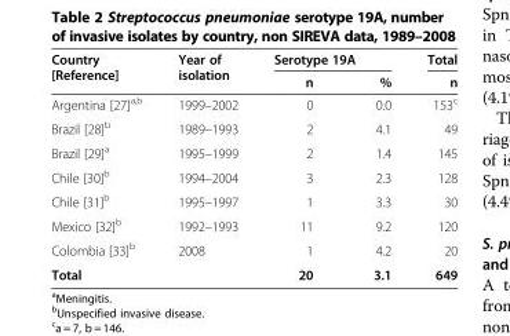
<table><thead><tr><td rowspan="2">Country [Reference]</td><td rowspan="2">Year of isolation</td><td colspan="2">Serotype 19A</td><td rowspan="2">Total n</td></tr><tr><td>n</td><td>%</td></tr></thead><tbody><tr><td>Argentina [27]<sup>a,b</sup></td><td>1999–2002</td><td>0</td><td>0.0</td><td>153<sup>c</sup></td></tr><tr><td>Brazil [28]<sup>b</sup></td><td>1989–1993</td><td>2</td><td>4.1</td><td>49</td></tr><tr><td>Brazil [29]<sup>a</sup></td><td>1995–1999</td><td>2</td><td>1.4</td><td>145</td></tr><tr><td>Chile [30]<sup>b</sup></td><td>1994–2004</td><td>3</td><td>2.3</td><td>128</td></tr><tr><td>Chile [31]<sup>b</sup></td><td>1995–1997</td><td>1</td><td>3.3</td><td>30</td></tr><tr><td>Mexico [32]<sup>b</sup></td><td>1992–1993</td><td>11</td><td>9.2</td><td>120</td></tr><tr><td>Colombia [33]<sup>b</sup></td><td>2008</td><td>1</td><td>4.2</td><td>20</td></tr><tr><td>Total</td><td></td><td>20</td><td>3.1</td><td>649</td></tr></tbody></table>